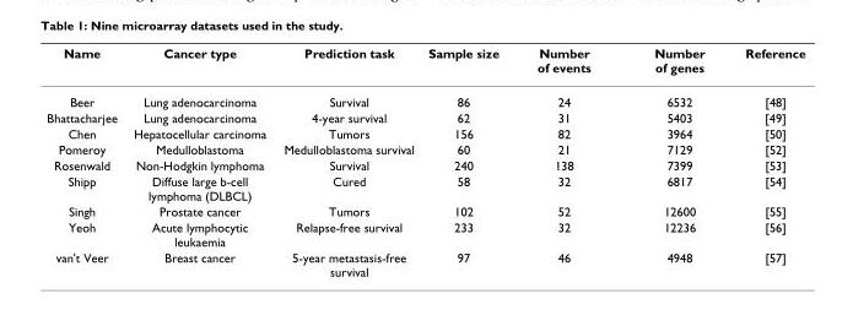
<table><thead><tr><td>Name</td><td>Cancer type</td><td>Prediction task</td><td>Sample size</td><td>Number of events</td><td>Number of genes</td><td>Reference</td></tr></thead><tbody><tr><td>Beer</td><td>Lung adenocarcinoma</td><td>Survival</td><td>86</td><td>24</td><td>6532</td><td>[48]</td></tr><tr><td>Bhattacharjee</td><td>Lung adenocarcinoma</td><td>4-year survival</td><td>62</td><td>31</td><td>5403</td><td>[49]</td></tr><tr><td>Chen</td><td>Hepatocellular carcinoma</td><td>Tumors</td><td>156</td><td>82</td><td>3964</td><td>[50]</td></tr><tr><td>Pomeroy</td><td>Medulloblastoma</td><td>Medulloblastoma survival</td><td>60</td><td>21</td><td>7129</td><td>[52]</td></tr><tr><td>Rosenwald</td><td>Non-Hodgkin lymphoma</td><td>Survival</td><td>240</td><td>138</td><td>7399</td><td>[53]</td></tr><tr><td>Shipp</td><td>Diffuse large b-cell lymphoma (DLBCL)</td><td>Cured</td><td>58</td><td>32</td><td>6817</td><td>[54]</td></tr><tr><td>Singh</td><td>Prostate cancer</td><td>Tumors</td><td>102</td><td>52</td><td>12600</td><td>[55]</td></tr><tr><td>Yeoh</td><td>Acute lymphocytic leukaemia</td><td>Relapse-free survival</td><td>233</td><td>32</td><td>12236</td><td>[56]</td></tr><tr><td>van&#x27;t Veer</td><td>Breast cancer</td><td>5-year metastasis-free survival</td><td>97</td><td>46</td><td>4948</td><td>[57]</td></tr></tbody></table>